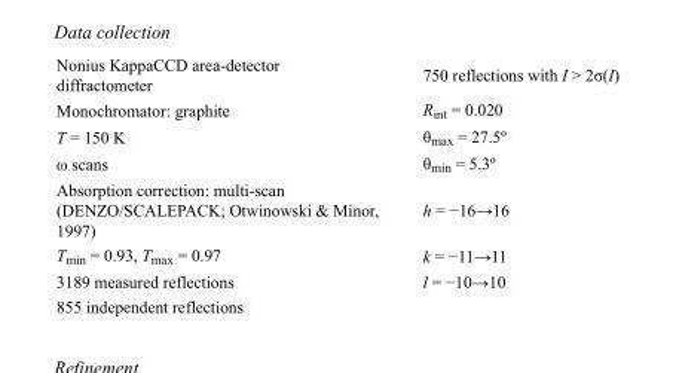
<table><tbody><tr><td>Nonius KappaCCD area-detector diffractometer</td><td>750 reflections with I &gt; 2σ(I)</td></tr><tr><td>Monochromator: graphite</td><td>R<sub>int</sub> = 0.020</td></tr><tr><td>T = 150 K</td><td>θ<sub>max</sub> = 27.5º</td></tr><tr><td>ω scans</td><td>θ<sub>min</sub> = 5.3º</td></tr><tr><td>Absorption correction: multi-scan (DENZO/SCALEPACK; Otwinowski &amp; Minor, 1997)</td><td>h = −16→16</td></tr><tr><td>T<sub>min</sub> = 0.93, T<sub>max</sub> = 0.97</td><td>k = −11→11</td></tr><tr><td>3189 measured reflections</td><td>l = −10→10</td></tr><tr><td>855 independent reflections</td><td></td></tr></tbody></table>